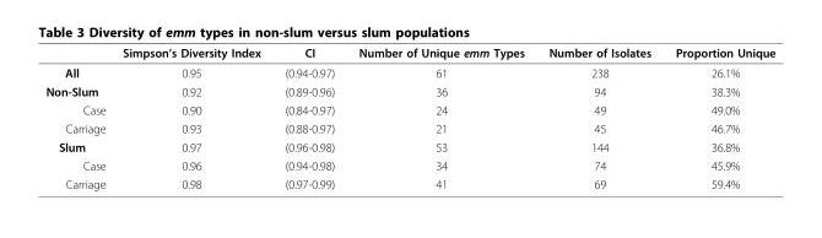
<table><thead><tr><td></td><td>Simpson’s Diversity Index</td><td>CI</td><td>Number of Unique emm Types</td><td>Number of Isolates</td><td>Proportion Unique</td></tr></thead><tbody><tr><td>All</td><td>0.95</td><td>(0.94-0.97)</td><td>61</td><td>238</td><td>26.1%</td></tr><tr><td>Non-Slum</td><td>0.92</td><td>(0.89-0.96)</td><td>36</td><td>94</td><td>38.3%</td></tr><tr><td>Case</td><td>0.90</td><td>(0.84-0.97)</td><td>24</td><td>49</td><td>49.0%</td></tr><tr><td>Carriage</td><td>0.93</td><td>(0.88-0.97)</td><td>21</td><td>45</td><td>46.7%</td></tr><tr><td>Slum</td><td>0.97</td><td>(0.96-0.98)</td><td>53</td><td>144</td><td>36.8%</td></tr><tr><td>Case</td><td>0.96</td><td>(0.94-0.98)</td><td>34</td><td>74</td><td>45.9%</td></tr><tr><td>Carriage</td><td>0.98</td><td>(0.97-0.99)</td><td>41</td><td>69</td><td>59.4%</td></tr></tbody></table>